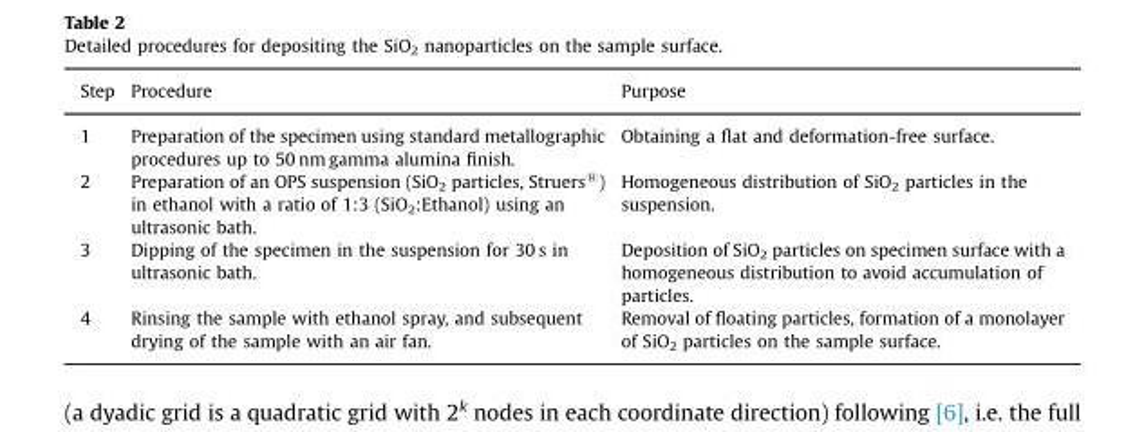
<table><thead><tr><td>Step</td><td>Procedure</td><td>Purpose</td></tr></thead><tbody><tr><td>1</td><td>Preparation of the specimen using standard metallographic procedures up to 50 nm gamma alumina finish.</td><td>Obtaining a flat and deformation-free surface.</td></tr><tr><td>2</td><td>Preparation of an OPS suspension (SiO<sub>2</sub> particles, Struers®) in ethanol with a ratio of 1:3 (SiO<sub>2</sub>:Ethanol) using an ultrasonic bath.</td><td>Homogeneous distribution of SiO<sub>2</sub> particles in the suspension.</td></tr><tr><td>3</td><td>Dipping of the specimen in the suspension for 30 s in ultrasonic bath.</td><td>Deposition of SiO<sub>2</sub> particles on specimen surface with a homogeneous distribution to avoid accumulation of particles.</td></tr><tr><td>4</td><td>Rinsing the sample with ethanol spray, and subsequent drying of the sample with an air fan.</td><td>Removal of floating particles, formation of a monolayer of SiO<sub>2</sub> particles on the sample surface.</td></tr></tbody></table>